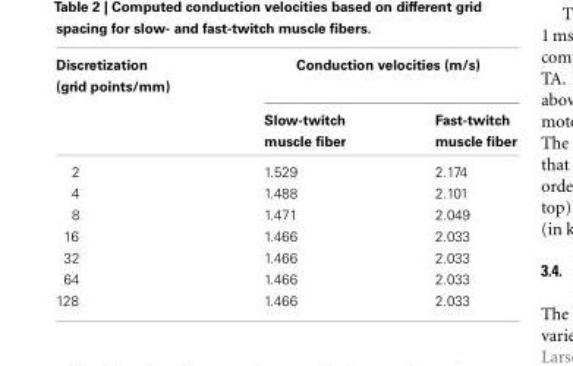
<table><thead><tr><td rowspan="2">Discretization (grid points/mm)</td><td colspan="2">Conduction velocities (m/s)</td></tr><tr><td>Slow-twitch muscle fiber</td><td>Fast-twitch muscle fiber</td></tr></thead><tbody><tr><td>2</td><td>1.529</td><td>2.174</td></tr><tr><td>4</td><td>1.488</td><td>2.101</td></tr><tr><td>8</td><td>1.471</td><td>2.049</td></tr><tr><td>16</td><td>1.466</td><td>2.033</td></tr><tr><td>32</td><td>1.466</td><td>2.033</td></tr><tr><td>64</td><td>1.466</td><td>2.033</td></tr><tr><td>128</td><td>1.466</td><td>2.033</td></tr></tbody></table>